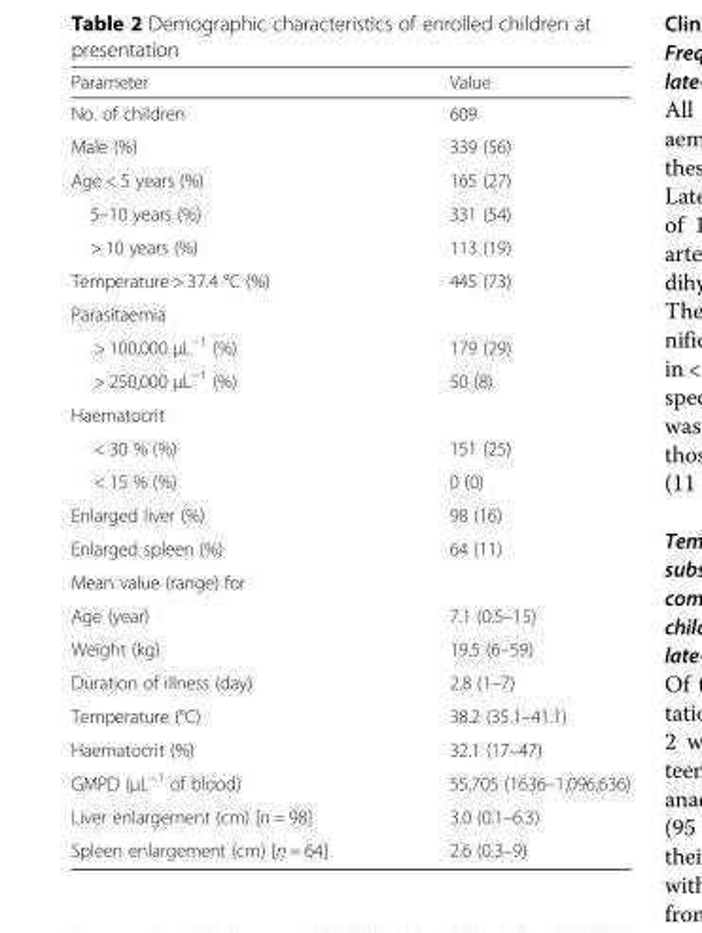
<table><thead><tr><td>Parameter</td><td>Value</td></tr></thead><tbody><tr><td>No. of children</td><td>609</td></tr><tr><td>Male (%)</td><td>339 (56)</td></tr><tr><td>Age &lt; 5 years (%)</td><td>165 (27)</td></tr><tr><td>5–10 years (%)</td><td>331 (54)</td></tr><tr><td>&gt; 10 years (%)</td><td>113 (19)</td></tr><tr><td>Temperature &gt; 37.4 °C (%)</td><td>445 (73)</td></tr><tr><td colspan="2">Parasitaemia</td></tr><tr><td>&gt; 100,000 μL<sup>−1</sup> (%)</td><td>179 (29)</td></tr><tr><td>&gt; 250,000 μL<sup>−1</sup> (%)</td><td>50 (8)</td></tr><tr><td colspan="2">Haematocrit</td></tr><tr><td>&lt; 30 % (%)</td><td>151 (25)</td></tr><tr><td>&lt; 15 % (%)</td><td>0 (0)</td></tr><tr><td>Enlarged liver (%)</td><td>98 (16)</td></tr><tr><td>Enlarged spleen (%)</td><td>64 (11)</td></tr><tr><td colspan="2">Mean value (range) for</td></tr><tr><td>Age (year)</td><td>7.1 (0.5–15)</td></tr><tr><td>Weight (kg)</td><td>19.5 (6–59)</td></tr><tr><td>Duration of illness (day)</td><td>2.8 (1–7)</td></tr><tr><td>Temperature (°C)</td><td>38.2 (35.1–41.1)</td></tr><tr><td>Haematocrit (%)</td><td>32.1 (17–47)</td></tr><tr><td>GMPD (μL<sup>−1</sup> of blood)</td><td>55,705 (1636–1,096,636)</td></tr><tr><td>Liver enlargement (cm) [n = 98]</td><td>3.0 (0.1–6.3)</td></tr><tr><td>Spleen enlargement (cm) [n = 64]</td><td>2.6 (0.3–9)</td></tr></tbody></table>